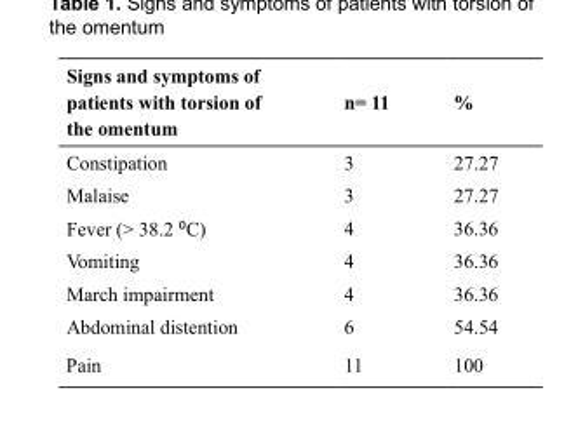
<table><thead><tr><td>Signs and symptoms of patients with torsion of the omentum</td><td>n= 11</td><td>%</td></tr></thead><tbody><tr><td>Constipation</td><td>3</td><td>27.27</td></tr><tr><td>Malaise</td><td>3</td><td>27.27</td></tr><tr><td>Fever (&gt; 38.2 ⁰C)</td><td>4</td><td>36.36</td></tr><tr><td>Vomiting</td><td>4</td><td>36.36</td></tr><tr><td>March impairment</td><td>4</td><td>36.36</td></tr><tr><td>Abdominal distention</td><td>6</td><td>54.54</td></tr><tr><td>Pain</td><td>11</td><td>100</td></tr></tbody></table>